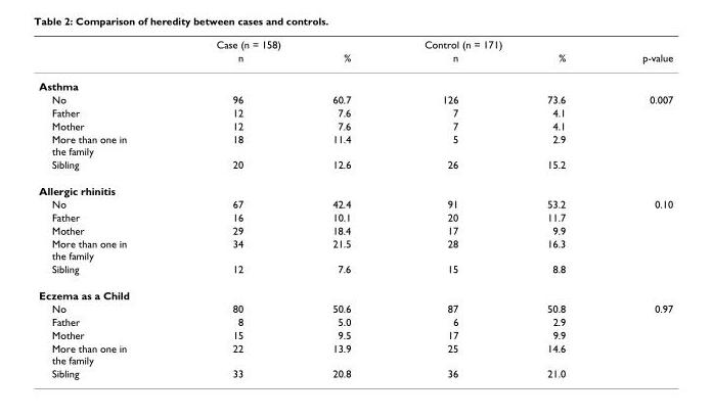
<table><thead><tr><td rowspan="2"></td><td colspan="2">Case (n = 158)</td><td colspan="2">Control (n = 171)</td><td rowspan="2">p-value</td></tr><tr><td>n</td><td>%</td><td>n</td><td>%</td></tr></thead><tbody><tr><td colspan="6">Asthma</td></tr><tr><td>No</td><td>96</td><td>60.7</td><td>126</td><td>73.6</td><td>0.007</td></tr><tr><td>Father</td><td>12</td><td>7.6</td><td>7</td><td>4.1</td><td></td></tr><tr><td>Mother</td><td>12</td><td>7.6</td><td>7</td><td>4.1</td><td></td></tr><tr><td>More than one in the family</td><td>18</td><td>11.4</td><td>5</td><td>2.9</td><td></td></tr><tr><td>Sibling</td><td>20</td><td>12.6</td><td>26</td><td>15.2</td><td></td></tr><tr><td colspan="6">Allergic rhinitis</td></tr><tr><td>No</td><td>67</td><td>42.4</td><td>91</td><td>53.2</td><td>0.10</td></tr><tr><td>Father</td><td>16</td><td>10.1</td><td>20</td><td>11.7</td><td></td></tr><tr><td>Mother</td><td>29</td><td>18.4</td><td>17</td><td>9.9</td><td></td></tr><tr><td>More than one in the family</td><td>34</td><td>21.5</td><td>28</td><td>16.3</td><td></td></tr><tr><td>Sibling</td><td>12</td><td>7.6</td><td>15</td><td>8.8</td><td></td></tr><tr><td colspan="6">Eczema as a Child</td></tr><tr><td>No</td><td>80</td><td>50.6</td><td>87</td><td>50.8</td><td>0.97</td></tr><tr><td>Father</td><td>8</td><td>5.0</td><td>6</td><td>2.9</td><td></td></tr><tr><td>Mother</td><td>15</td><td>9.5</td><td>17</td><td>9.9</td><td></td></tr><tr><td>More than one in the family</td><td>22</td><td>13.9</td><td>25</td><td>14.6</td><td></td></tr><tr><td>Sibling</td><td>33</td><td>20.8</td><td>36</td><td>21.0</td><td></td></tr></tbody></table>